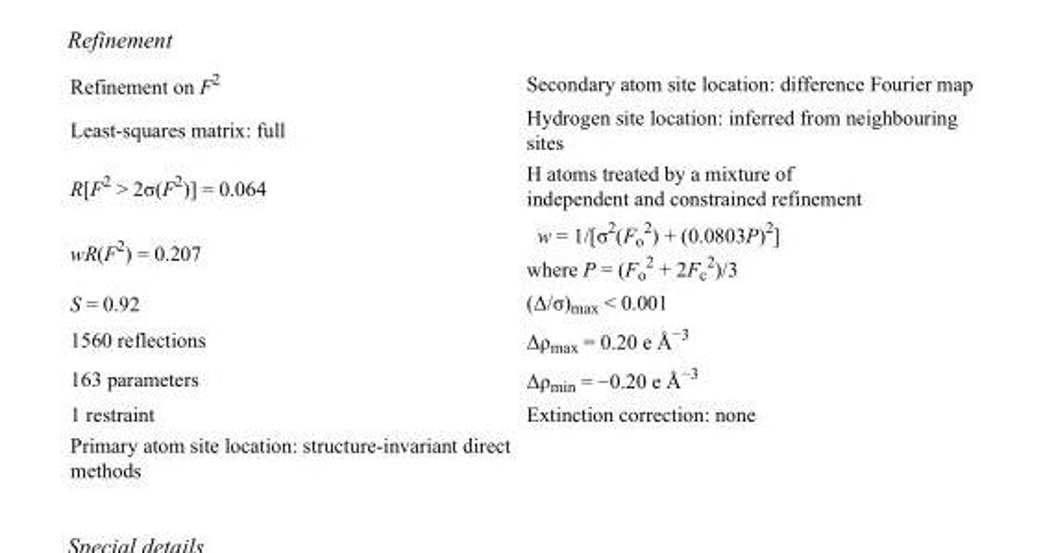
<table><tbody><tr><td>Refinement on F<sup>2</sup></td><td>Secondary atom site location: difference Fourier map</td></tr><tr><td>Least-squares matrix: full</td><td>Hydrogen site location: inferred from neighbouring sites</td></tr><tr><td>R[F<sup>2</sup> &gt; 2σ(F<sup>2</sup>)] = 0.064</td><td>H atoms treated by a mixture of independent and constrained refinement</td></tr><tr><td>wR(F<sup>2</sup>) = 0.207</td><td>w = 1/[σ<sup>2</sup>(F<sub>o</sub> <sup>2</sup>) + (0.0803P)<sup>2</sup>] where P = (F<sub>o</sub> <sup>2</sup> + 2F<sub>c</sub> <sup>2</sup>)/3</td></tr><tr><td>S = 0.92</td><td>(Δ/σ)<sub>max</sub> &lt; 0.001</td></tr><tr><td>1560 reflections</td><td>Δρ<sub>max</sub> = 0.20 e Å<sup>−3</sup></td></tr><tr><td>163 parameters</td><td>Δρ<sub>min</sub> = −0.20 e Å<sup>−3</sup></td></tr><tr><td>1 restraint</td><td>Extinction correction: none</td></tr><tr><td>Primary atom site location: structure-invariant direct methods</td><td></td></tr></tbody></table>